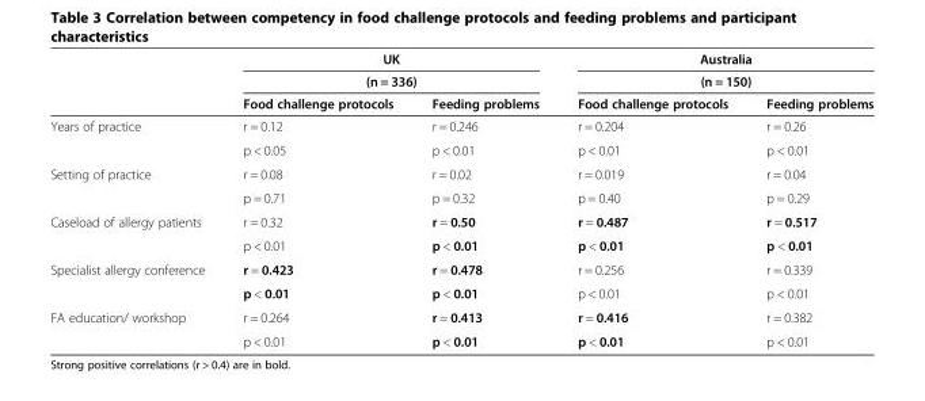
<table><thead><tr><td rowspan="3"></td><td rowspan="2" colspan="2">UK (n = 336)</td><td rowspan="2" colspan="2">Australia (n = 150)</td></tr><tr></tr><tr><td>Food challenge protocols</td><td>Feeding problems</td><td>Food challenge protocols</td><td>Feeding problems</td></tr></thead><tbody><tr><td rowspan="2">Years of practice</td><td>r = 0.12</td><td>r = 0.246</td><td>r = 0.204</td><td>r = 0.26</td></tr><tr><td>p &lt; 0.05</td><td>p &lt; 0.01</td><td>p &lt; 0.01</td><td>p &lt; 0.01</td></tr><tr><td rowspan="2">Setting of practice</td><td>r = 0.08</td><td>r = 0.02</td><td>r = 0.019</td><td>r = 0.04</td></tr><tr><td>p = 0.71</td><td>p = 0.32</td><td>p = 0.40</td><td>p = 0.29</td></tr><tr><td rowspan="2">Caseload of allergy patients</td><td>r = 0.32</td><td>r = 0.50</td><td>r = 0.487</td><td>r = 0.517</td></tr><tr><td>p &lt; 0.01</td><td>p &lt; 0.01</td><td>p &lt; 0.01</td><td>p &lt; 0.01</td></tr><tr><td rowspan="2">Specialist allergy conference</td><td>r = 0.423</td><td>r = 0.478</td><td>r = 0.256</td><td>r = 0.339</td></tr><tr><td>p &lt; 0.01</td><td>p &lt; 0.01</td><td>p &lt; 0.01</td><td>p &lt; 0.01</td></tr><tr><td rowspan="2">FA education/ workshop</td><td>r = 0.264</td><td>r = 0.413</td><td>r = 0.416</td><td>r = 0.382</td></tr><tr><td>p &lt; 0.01</td><td>p &lt; 0.01</td><td>p &lt; 0.01</td><td>p &lt; 0.01</td></tr></tbody></table>